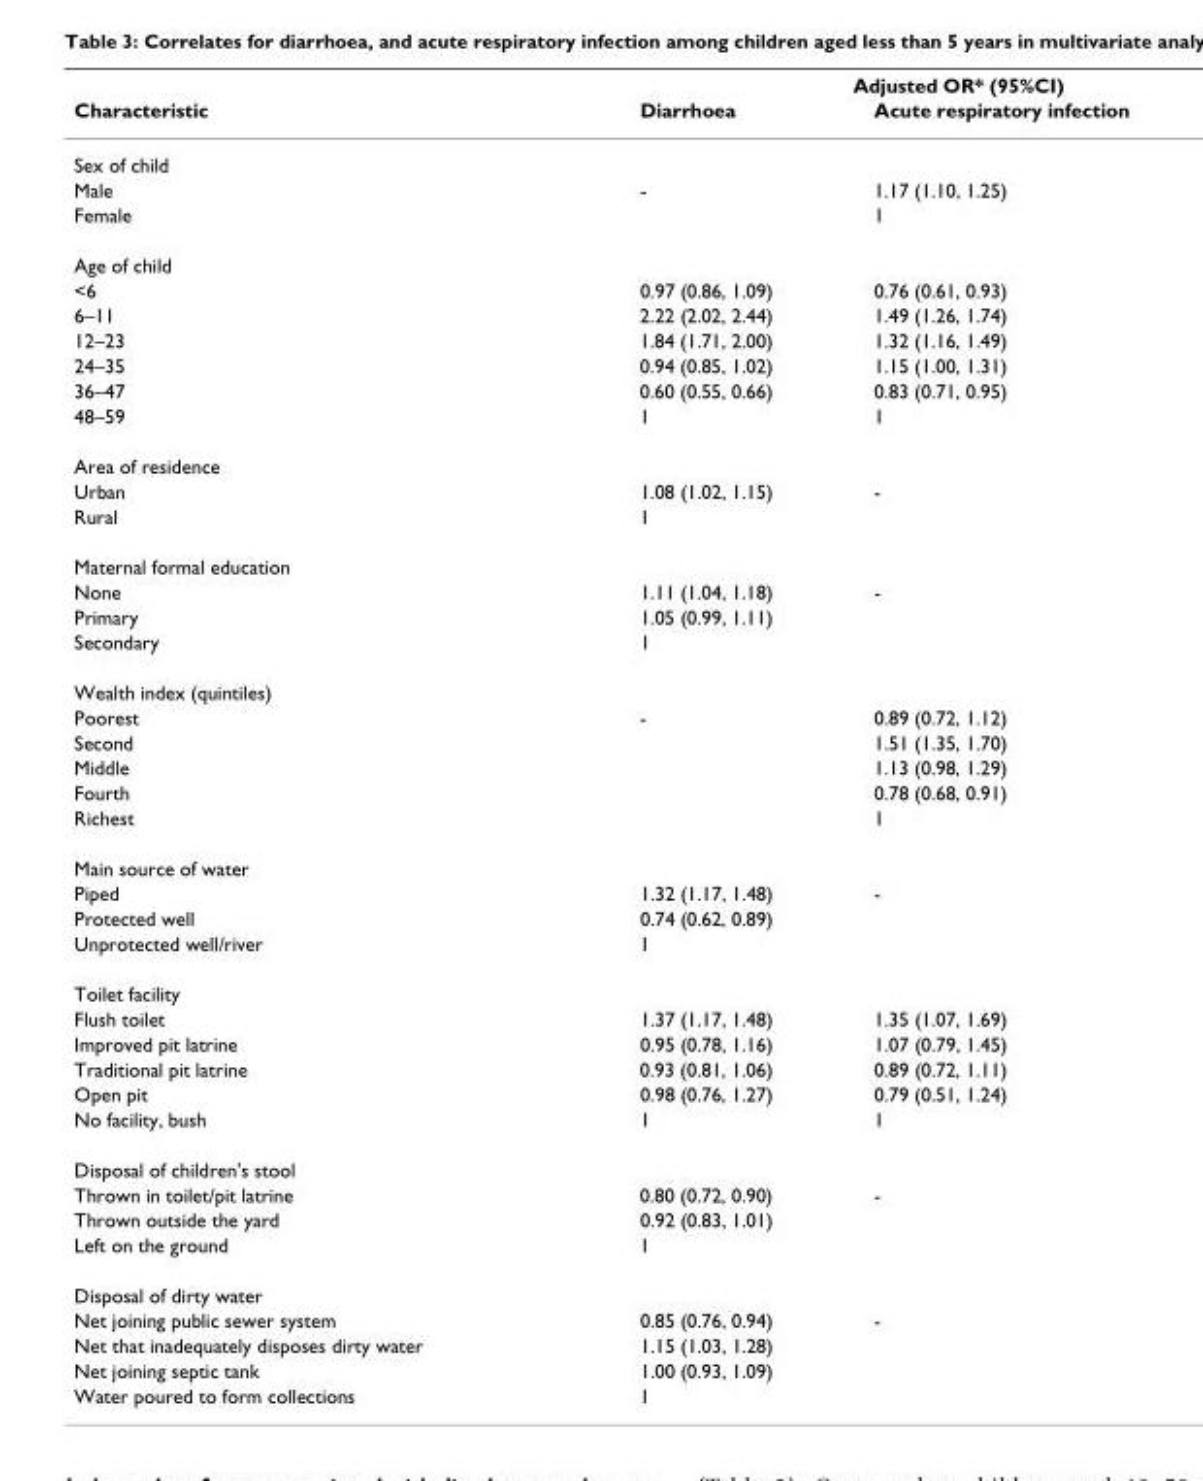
<table><thead><tr><td rowspan="2">Characteristic</td><td colspan="2">Adjusted OR* (95%CI)</td></tr><tr><td>Diarrhoea</td><td>Acute respiratory infection</td></tr></thead><tbody><tr><td colspan="3">Sex of child</td></tr><tr><td>Male</td><td>-</td><td>1.17 (1.10, 1.25)</td></tr><tr><td>Female</td><td></td><td>1</td></tr><tr><td colspan="3">Age of child</td></tr><tr><td>&lt;6</td><td>0.97 (0.86, 1.09)</td><td>0.76 (0.61, 0.93)</td></tr><tr><td>6–11</td><td>2.22 (2.02, 2.44)</td><td>1.49 (1.26, 1.74)</td></tr><tr><td>12–23</td><td>1.84 (1.71, 2.00)</td><td>1.32 (1.16, 1.49)</td></tr><tr><td>24–35</td><td>0.94 (0.85, 1.02)</td><td>1.15 (1.00, 1.31)</td></tr><tr><td>36–47</td><td>0.60 (0.55, 0.66)</td><td>0.83 (0.71, 0.95)</td></tr><tr><td>48–59</td><td>1</td><td>1</td></tr><tr><td colspan="3">Area of residence</td></tr><tr><td>Urban</td><td>1.08 (1.02, 1.15)</td><td>-</td></tr><tr><td>Rural</td><td>1</td><td></td></tr><tr><td colspan="3">Maternal formal education</td></tr><tr><td>None</td><td>1.11 (1.04, 1.18)</td><td>-</td></tr><tr><td>Primary</td><td>1.05 (0.99, 1.11)</td><td></td></tr><tr><td>Secondary</td><td>1</td><td></td></tr><tr><td colspan="3">Wealth index (quintiles)</td></tr><tr><td>Poorest</td><td>-</td><td>0.89 (0.72, 1.12)</td></tr><tr><td>Second</td><td></td><td>1.51 (1.35, 1.70)</td></tr><tr><td>Middle</td><td></td><td>1.13 (0.98, 1.29)</td></tr><tr><td>Fourth</td><td></td><td>0.78 (0.68, 0.91)</td></tr><tr><td>Richest</td><td></td><td>1</td></tr><tr><td colspan="3">Main source of water</td></tr><tr><td>Piped</td><td>1.32 (1.17, 1.48)</td><td>-</td></tr><tr><td>Protected well</td><td>0.74 (0.62, 0.89)</td><td></td></tr><tr><td>Unprotected well/river</td><td>1</td><td></td></tr><tr><td colspan="3">Toilet facility</td></tr><tr><td>Flush toilet</td><td>1.37 (1.17, 1.48)</td><td>1.35 (1.07, 1.69)</td></tr><tr><td>Improved pit latrine</td><td>0.95 (0.78, 1.16)</td><td>1.07 (0.79, 1.45)</td></tr><tr><td>Traditional pit latrine</td><td>0.93 (0.81, 1.06)</td><td>0.89 (0.72, 1.11)</td></tr><tr><td>Open pit</td><td>0.98 (0.76, 1.27)</td><td>0.79 (0.51, 1.24)</td></tr><tr><td>No facility, bush</td><td>1</td><td>1</td></tr><tr><td colspan="3">Disposal of children&#x27;s stool</td></tr><tr><td>Thrown in toilet/pit latrine</td><td>0.80 (0.72, 0.90)</td><td>-</td></tr><tr><td>Thrown outside the yard</td><td>0.92 (0.83, 1.01)</td><td></td></tr><tr><td>Left on the ground</td><td>1</td><td></td></tr><tr><td colspan="3">Disposal of dirty water</td></tr><tr><td>Net joining public sewer system</td><td>0.85 (0.76, 0.94)</td><td>-</td></tr><tr><td>Net that inadequately disposes dirty water</td><td>1.15 (1.03, 1.28)</td><td></td></tr><tr><td>Net joining septic tank</td><td>1.00 (0.93, 1.09)</td><td></td></tr><tr><td>Water poured to form collections</td><td>1</td><td></td></tr></tbody></table>